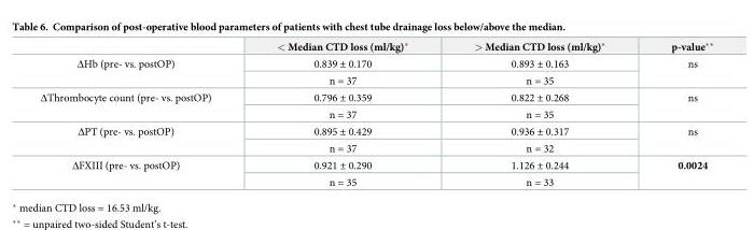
<table><thead><tr><td></td><td>&lt; Median CTD loss (ml/kg)*</td><td>&gt; Median CTD loss (ml/kg)*</td><td>p-value**</td></tr></thead><tbody><tr><td rowspan="2">ΔHb (pre- vs. postOP)</td><td>0.839 ± 0.170</td><td>0.893 ± 0.163</td><td rowspan="2">ns</td></tr><tr><td>n = 37</td><td>n = 35</td></tr><tr><td rowspan="2">ΔThrombocyte count (pre- vs. postOP)</td><td>0.796 ± 0.359</td><td>0.822 ± 0.268</td><td rowspan="2">ns</td></tr><tr><td>n = 37</td><td>n = 35</td></tr><tr><td rowspan="2">ΔPT (pre- vs. postOP)</td><td>0.895 ± 0.429</td><td>0.936 ± 0.317</td><td rowspan="2">ns</td></tr><tr><td>n = 37</td><td>n = 32</td></tr><tr><td rowspan="2">ΔFXIII (pre- vs. postOP)</td><td>0.921 ± 0.290</td><td>1.126 ± 0.244</td><td rowspan="2">0.0024</td></tr><tr><td>n = 35</td><td>n = 33</td></tr></tbody></table>